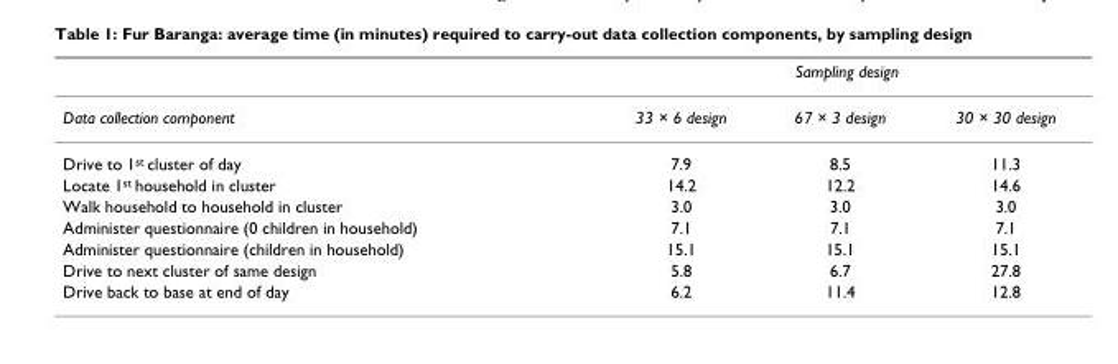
<table><thead><tr><td rowspan="2">Data collection component</td><td colspan="3">Sampling design</td></tr><tr><td>33 × 6 design</td><td>67 × 3 design</td><td>30 × 30 design</td></tr></thead><tbody><tr><td>Drive to 1<sup>st</sup> cluster of day</td><td>7.9</td><td>8.5</td><td>11.3</td></tr><tr><td>Locate 1<sup>st</sup> household in cluster</td><td>14.2</td><td>12.2</td><td>14.6</td></tr><tr><td>Walk household to household in cluster</td><td>3.0</td><td>3.0</td><td>3.0</td></tr><tr><td>Administer questionnaire (0 children in household)</td><td>7.1</td><td>7.1</td><td>7.1</td></tr><tr><td>Administer questionnaire (children in household)</td><td>15.1</td><td>15.1</td><td>15.1</td></tr><tr><td>Drive to next cluster of same design</td><td>5.8</td><td>6.7</td><td>27.8</td></tr><tr><td>Drive back to base at end of day</td><td>6.2</td><td>11.4</td><td>12.8</td></tr></tbody></table>